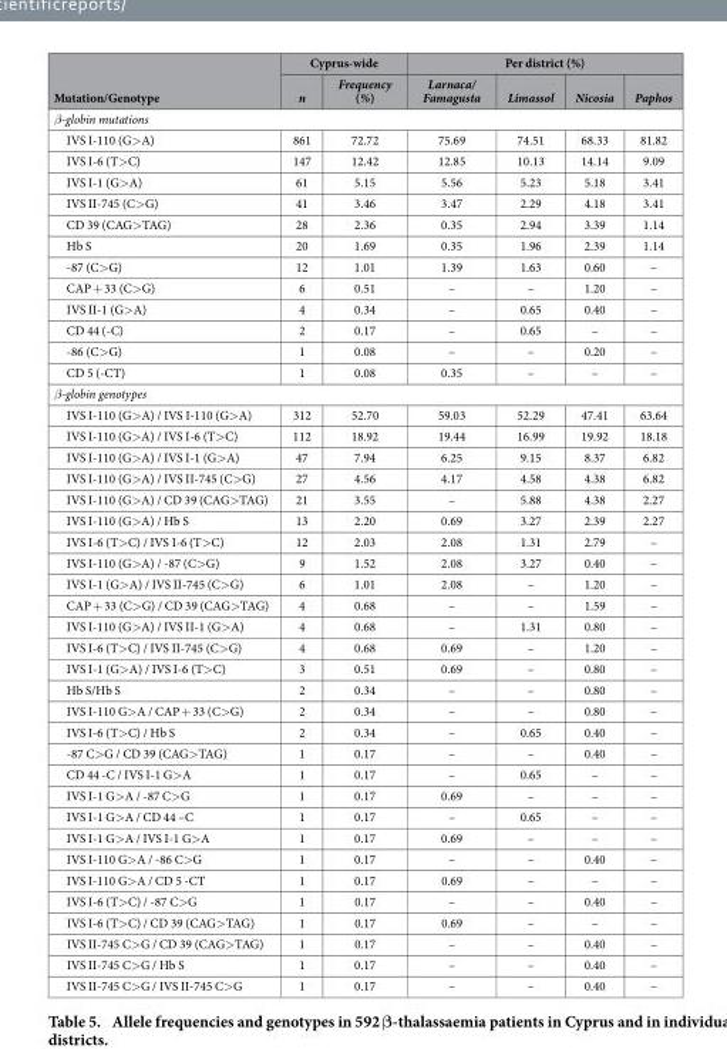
<table><thead><tr><td rowspan="2">Mutation/Genotype</td><td colspan="2">Cyprus-wide</td><td colspan="4">Per district (%)</td></tr><tr><td>n</td><td>Frequency (%)</td><td>Larnaca/ Famagusta</td><td>Limassol</td><td>Nicosia</td><td>Paphos</td></tr></thead><tbody><tr><td colspan="7">β-globin mutations</td></tr><tr><td>IVS I-110 (G&gt; A)</td><td>861</td><td>72.72</td><td>75.69</td><td>74.51</td><td>68.33</td><td>81.82</td></tr><tr><td>IVS I-6 (T&gt; C)</td><td>147</td><td>12.42</td><td>12.85</td><td>10.13</td><td>14.14</td><td>9.09</td></tr><tr><td>IVS I-1 (G&gt; A)</td><td>61</td><td>5.15</td><td>5.56</td><td>5.23</td><td>5.18</td><td>3.41</td></tr><tr><td>IVS II-745 (C&gt; G)</td><td>41</td><td>3.46</td><td>3.47</td><td>2.29</td><td>4.18</td><td>3.41</td></tr><tr><td>CD 39 (CAG&gt; TAG)</td><td>28</td><td>2.36</td><td>0.35</td><td>2.94</td><td>3.39</td><td>1.14</td></tr><tr><td>Hb S</td><td>20</td><td>1.69</td><td>0.35</td><td>1.96</td><td>2.39</td><td>1.14</td></tr><tr><td>- 87 (C&gt; G)</td><td>12</td><td>1.01</td><td>1.39</td><td>1.63</td><td>0.60</td><td>–</td></tr><tr><td>CAP + 33 (C&gt; G)</td><td>6</td><td>0.51</td><td>–</td><td>–</td><td>1.20</td><td>–</td></tr><tr><td>IVS II-1 (G&gt; A)</td><td>4</td><td>0.34</td><td>–</td><td>0.65</td><td>0.40</td><td>–</td></tr><tr><td>CD 44 (-C)</td><td>2</td><td>0.17</td><td>–</td><td>0.65</td><td>–</td><td>–</td></tr><tr><td>- 86 (C&gt; G)</td><td>1</td><td>0.08</td><td>–</td><td>–</td><td>0.20</td><td>–</td></tr><tr><td>CD 5 (-CT)</td><td>1</td><td>0.08</td><td>0.35</td><td>–</td><td>–</td><td>–</td></tr><tr><td colspan="7">β-globin genotypes</td></tr><tr><td>IVS I-110 (G&gt; A) / IVS I-110 (G&gt; A)</td><td>312</td><td>52.70</td><td>59.03</td><td>52.29</td><td>47.41</td><td>63.64</td></tr><tr><td>IVS I-110 (G&gt; A) / IVS I-6 (T&gt; C)</td><td>112</td><td>18.92</td><td>19.44</td><td>16.99</td><td>19.92</td><td>18.18</td></tr><tr><td>IVS I-110 (G&gt; A) / IVS I-1 (G&gt; A)</td><td>47</td><td>7.94</td><td>6.25</td><td>9.15</td><td>8.37</td><td>6.82</td></tr><tr><td>IVS I-110 (G&gt; A) / IVS II-745 (C&gt; G)</td><td>27</td><td>4.56</td><td>4.17</td><td>4.58</td><td>4.38</td><td>6.82</td></tr><tr><td>IVS I-110 (G&gt; A) / CD 39 (CAG&gt; TAG)</td><td>21</td><td>3.55</td><td>–</td><td>5.88</td><td>4.38</td><td>2.27</td></tr><tr><td>IVS I-110 (G&gt; A) / Hb S</td><td>13</td><td>2.20</td><td>0.69</td><td>3.27</td><td>2.39</td><td>2.27</td></tr><tr><td>IVS I-6 (T&gt; C) / IVS I-6 (T&gt; C)</td><td>12</td><td>2.03</td><td>2.08</td><td>1.31</td><td>2.79</td><td>–</td></tr><tr><td>IVS I-110 (G&gt; A) / - 87 (C&gt; G)</td><td>9</td><td>1.52</td><td>2.08</td><td>3.27</td><td>0.40</td><td>–</td></tr><tr><td>IVS I-1 (G&gt; A) / IVS II-745 (C&gt; G)</td><td>6</td><td>1.01</td><td>2.08</td><td>–</td><td>1.20</td><td>–</td></tr><tr><td>CAP + 33 (C&gt; G) / CD 39 (CAG&gt; TAG)</td><td>4</td><td>0.68</td><td>–</td><td>–</td><td>1.59</td><td>–</td></tr><tr><td>IVS I-110 (G&gt; A) / IVS II-1 (G&gt; A)</td><td>4</td><td>0.68</td><td>–</td><td>1.31</td><td>0.80</td><td>–</td></tr><tr><td>IVS I-6 (T&gt; C) / IVS II-745 (C&gt; G)</td><td>4</td><td>0.68</td><td>0.69</td><td>–</td><td>1.20</td><td>–</td></tr><tr><td>IVS I-1 (G&gt; A) / IVS I-6 (T&gt; C)</td><td>3</td><td>0.51</td><td>0.69</td><td>–</td><td>0.80</td><td>–</td></tr><tr><td>Hb S/Hb S</td><td>2</td><td>0.34</td><td>–</td><td>–</td><td>0.80</td><td>–</td></tr><tr><td>IVS I-110 G&gt; A / CAP + 33 (C&gt; G)</td><td>2</td><td>0.34</td><td>–</td><td>–</td><td>0.80</td><td>–</td></tr><tr><td>IVS I-6 (T&gt; C) / Hb S</td><td>2</td><td>0.34</td><td>–</td><td>0.65</td><td>0.40</td><td>–</td></tr><tr><td>- 87 C&gt; G / CD 39 (CAG&gt; TAG)</td><td>1</td><td>0.17</td><td>–</td><td>–</td><td>0.40</td><td>–</td></tr><tr><td>CD 44 -C / IVS I-1 G&gt; A</td><td>1</td><td>0.17</td><td>–</td><td>0.65</td><td>–</td><td>–</td></tr><tr><td>IVS I-1 G&gt; A / - 87 C&gt; G</td><td>1</td><td>0.17</td><td>0.69</td><td>–</td><td>–</td><td>–</td></tr><tr><td>IVS I-1 G&gt; A / CD 44 –C</td><td>1</td><td>0.17</td><td>–</td><td>0.65</td><td>–</td><td>–</td></tr><tr><td>IVS I-1 G&gt; A / IVS I-1 G&gt; A</td><td>1</td><td>0.17</td><td>0.69</td><td>–</td><td>–</td><td>–</td></tr><tr><td>IVS I-110 G&gt; A / - 86 C&gt; G</td><td>1</td><td>0.17</td><td>–</td><td>–</td><td>0.40</td><td>–</td></tr><tr><td>IVS I-110 G&gt; A / CD 5 -CT</td><td>1</td><td>0.17</td><td>0.69</td><td>–</td><td>–</td><td>–</td></tr><tr><td>IVS I-6 (T&gt; C) / - 87 C&gt; G</td><td>1</td><td>0.17</td><td>–</td><td>–</td><td>0.40</td><td>–</td></tr><tr><td>IVS I-6 (T&gt; C) / CD 39 (CAG&gt; TAG)</td><td>1</td><td>0.17</td><td>0.69</td><td>–</td><td>–</td><td>–</td></tr><tr><td>IVS II-745 C&gt; G / CD 39 (CAG&gt; TAG)</td><td>1</td><td>0.17</td><td>–</td><td>–</td><td>0.40</td><td>–</td></tr><tr><td>IVS II-745 C&gt; G / Hb S</td><td>1</td><td>0.17</td><td>–</td><td>–</td><td>0.40</td><td>–</td></tr><tr><td>IVS II-745 C&gt; G / IVS II-745 C&gt; G</td><td>1</td><td>0.17</td><td>–</td><td>–</td><td>0.40</td><td>–</td></tr></tbody></table>